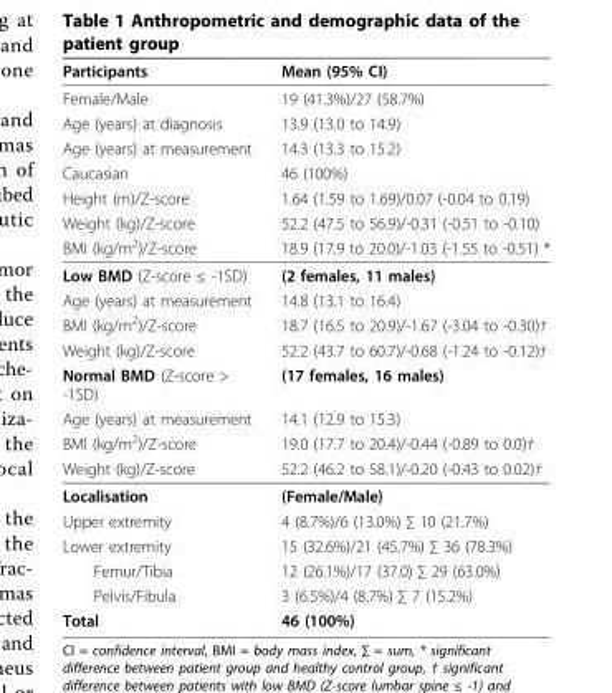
<table><thead><tr><td>Participants</td><td>Mean (95% CI)</td></tr></thead><tbody><tr><td>Female/Male</td><td>19 (41.3%)/27 (58.7%)</td></tr><tr><td>Age (years) at diagnosis</td><td>13.9 (13.0 to 14.9)</td></tr><tr><td>Age (years) at measurement</td><td>14.3 (13.3 to 15.2)</td></tr><tr><td>Caucasian</td><td>46 (100%)</td></tr><tr><td>Height (m)/Z-score</td><td>1.64 (1.59 to 1.69)/0.07 (-0.04 to 0.19)</td></tr><tr><td>Weight (kg)/Z-score</td><td>52.2 (47.5 to 56.9)/-0.31 (-0.51 to -0.10)</td></tr><tr><td>BMI (kg/m<sup>2</sup>)/Z-score</td><td>18.9 (17.9 to 20.0)/-1.03 (-1.55 to -0.51) *</td></tr><tr><td>Low BMD (Z-score ≤ -1SD)</td><td>(2 females, 11 males)</td></tr><tr><td>Age (years) at measurement</td><td>14.8 (13.1 to 16.4)</td></tr><tr><td>BMI (kg/m<sup>2</sup>)/Z-score</td><td>18.7 (16.5 to 20.9)/-1.67 (-3.04 to -0.30)†</td></tr><tr><td>Weight (kg)/Z-score</td><td>52.2 (43.7 to 60.7)/-0.68 (-1.24 to -0.12)†</td></tr><tr><td>Normal BMD (Z-score &gt; -1SD)</td><td>(17 females, 16 males)</td></tr><tr><td>Age (years) at measurement</td><td>14.1 (12.9 to 15.3)</td></tr><tr><td>BMI (kg/m<sup>2</sup>)/Z-score</td><td>19.0 (17.7 to 20.4)/-0.44 (-0.89 to 0.0)†</td></tr><tr><td>Weight (kg)/Z-score</td><td>52.2 (46.2 to 58.1)/-0.20 (-0.43 to 0.02)†</td></tr><tr><td>Localisation</td><td>(Female/Male)</td></tr><tr><td>Upper extremity</td><td>4 (8.7%)/6 (13.0%) ∑ 10 (21.7%)</td></tr><tr><td>Lower extremity</td><td>15 (32.6%)/21 (45.7%) ∑ 36 (78.3%)</td></tr><tr><td>Femur/Tibia</td><td>12 (26.1%)/17 (37.0) ∑ 29 (63.0%)</td></tr><tr><td>Pelvis/Fibula</td><td>3 (6.5%)/4 (8.7%) ∑ 7 (15.2%)</td></tr><tr><td>Total</td><td>46 (100%)</td></tr></tbody></table>